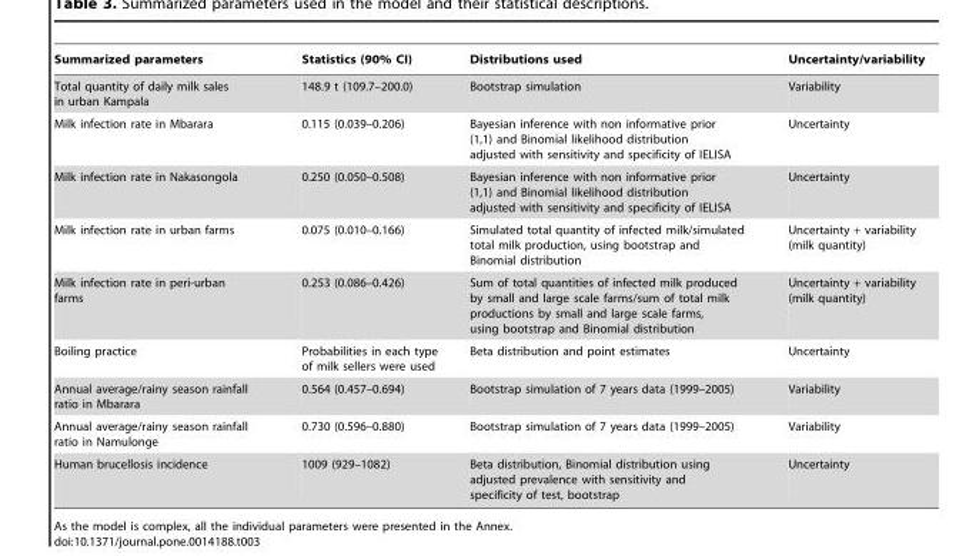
<table><thead><tr><td>Summarized parameters</td><td>Statistics (90% CI)</td><td>Distributions used</td><td>Uncertainty/variability</td></tr></thead><tbody><tr><td>Total quantity of daily milk sales in urban Kampala</td><td>148.9 t (109.7–200.0)</td><td>Bootstrap simulation</td><td>Variability</td></tr><tr><td>Milk infection rate in Mbarara</td><td>0.115 (0.039–0.206)</td><td>Bayesian inference with non informative prior (1,1) and Binomial likelihood distribution adjusted with sensitivity and specificity of IELISA</td><td>Uncertainty</td></tr><tr><td>Milk infection rate in Nakasongola</td><td>0.250 (0.050–0.508)</td><td>Bayesian inference with non informative prior (1,1) and Binomial likelihood distribution adjusted with sensitivity and specificity of IELISA</td><td>Uncertainty</td></tr><tr><td>Milk infection rate in urban farms</td><td>0.075 (0.010–0.166)</td><td>Simulated total quantity of infected milk/simulated total milk production, using bootstrap and Binomial distribution</td><td>Uncertainty + variability (milk quantity)</td></tr><tr><td>Milk infection rate in peri-urban farms</td><td>0.253 (0.086–0.426)</td><td>Sum of total quantities of infected milk produced by small and large scale farms/sum of total milk productions by small and large scale farms, using bootstrap and Binomial distribution</td><td>Uncertainty + variability (milk quantity)</td></tr><tr><td>Boiling practice</td><td>Probabilities in each type of milk sellers were used</td><td>Beta distribution and point estimates</td><td>Uncertainty</td></tr><tr><td>Annual average/rainy season rainfall ratio in Mbarara</td><td>0.564 (0.457–0.694)</td><td>Bootstrap simulation of 7 years data (1999–2005)</td><td>Variability</td></tr><tr><td>Annual average/rainy season rainfall ratio in Namulonge</td><td>0.730 (0.596–0.880)</td><td>Bootstrap simulation of 7 years data (1999–2005)</td><td>Variability</td></tr><tr><td>Human brucellosis incidence</td><td>1009 (929–1082)</td><td>Beta distribution, Binomial distribution using adjusted prevalence with sensitivity and specificity of test, bootstrap</td><td>Uncertainty</td></tr></tbody></table>